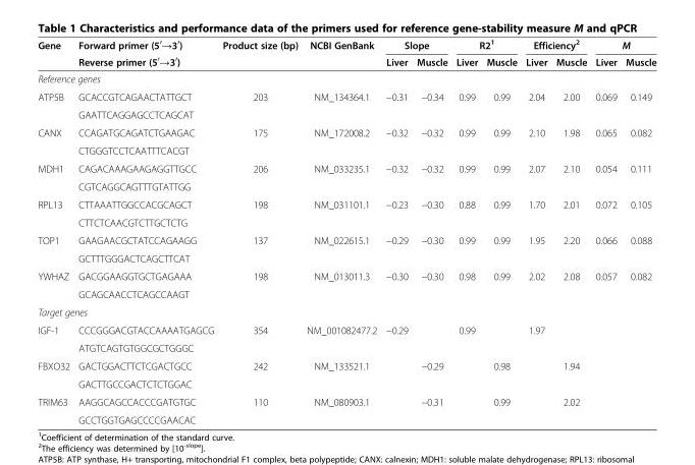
<table><thead><tr><td rowspan="2">Gene</td><td rowspan="2">Forward primer (5<sup>′</sup>→3<sup>′</sup>) Reverse primer (5<sup>′</sup>→3<sup>′</sup>)</td><td rowspan="2">Product size (bp)</td><td rowspan="2">NCBI GenBank</td><td colspan="2">Slope</td><td colspan="2">R2<sup>1</sup></td><td colspan="2">Efficiency<sup>2</sup></td><td colspan="2">M</td></tr><tr><td>Liver</td><td>Muscle</td><td>Liver</td><td>Muscle</td><td>Liver</td><td>Muscle</td><td>Liver</td><td>Muscle</td></tr></thead><tbody><tr><td colspan="12">Reference genes</td></tr><tr><td rowspan="2">ATP5B</td><td>GCACCGTCAGAACTATTGCT</td><td>203</td><td>NM_134364.1</td><td>−0.31</td><td>−0.34</td><td>0.99</td><td>0.99</td><td>2.04</td><td>2.00</td><td>0.069</td><td>0.149</td></tr><tr><td>GAATTCAGGAGCCTCAGCAT</td><td></td><td></td><td></td><td></td><td></td><td></td><td></td><td></td><td></td><td></td></tr><tr><td rowspan="2">CANX</td><td>CCAGATGCAGATCTGAAGAC</td><td>175</td><td>NM_172008.2</td><td>−0.32</td><td>−0.32</td><td>0.99</td><td>0.99</td><td>2.10</td><td>1.98</td><td>0.065</td><td>0.082</td></tr><tr><td>CTGGGTCCTCAATTTCACGT</td><td></td><td></td><td></td><td></td><td></td><td></td><td></td><td></td><td></td><td></td></tr><tr><td rowspan="2">MDH1</td><td>CAGACAAAGAAGAGGTTGCC</td><td>206</td><td>NM_033235.1</td><td>−0.32</td><td>−0.32</td><td>0.99</td><td>0.99</td><td>2.07</td><td>2.10</td><td>0.054</td><td>0.111</td></tr><tr><td>CGTCAGGCAGTTTGTATTGG</td><td></td><td></td><td></td><td></td><td></td><td></td><td></td><td></td><td></td><td></td></tr><tr><td rowspan="2">RPL13</td><td>CTTAAATTGGCCACGCAGCT</td><td>198</td><td>NM_031101.1</td><td>−0.23</td><td>−0.30</td><td>0.88</td><td>0.99</td><td>1.70</td><td>2.01</td><td>0.072</td><td>0.105</td></tr><tr><td>CTTCTCAACGTCTTGCTCTG</td><td></td><td></td><td></td><td></td><td></td><td></td><td></td><td></td><td></td><td></td></tr><tr><td rowspan="2">TOP1</td><td>GAAGAACGCTATCCAGAAGG</td><td>137</td><td>NM_022615.1</td><td>−0.29</td><td>−0.30</td><td>0.99</td><td>0.99</td><td>1.95</td><td>2.20</td><td>0.066</td><td>0.088</td></tr><tr><td>GCTTTGGGACTCAGCTTCAT</td><td></td><td></td><td></td><td></td><td></td><td></td><td></td><td></td><td></td><td></td></tr><tr><td rowspan="2">YWHAZ</td><td>GACGGAAGGTGCTGAGAAA</td><td>198</td><td>NM_013011.3</td><td>−0.30</td><td>−0.30</td><td>0.98</td><td>0.99</td><td>2.02</td><td>2.08</td><td>0.057</td><td>0.082</td></tr><tr><td>GCAGCAACCTCAGCCAAGT</td><td></td><td></td><td></td><td></td><td></td><td></td><td></td><td></td><td></td><td></td></tr><tr><td colspan="12">Target genes</td></tr><tr><td rowspan="2">IGF-1</td><td>CCCGGGACGTACCAAAATGAGCG</td><td>354</td><td>NM_001082477.2</td><td>−0.29</td><td></td><td>0.99</td><td></td><td>1.97</td><td></td><td></td><td></td></tr><tr><td>ATGTCAGTGTGGCGCTGGGC</td><td></td><td></td><td></td><td></td><td></td><td></td><td></td><td></td><td></td><td></td></tr><tr><td rowspan="2">FBXO32</td><td>GACTGGACTTCTCGACTGCC</td><td>242</td><td>NM_133521.1</td><td></td><td>−0.29</td><td></td><td>0.98</td><td></td><td>1.94</td><td></td><td></td></tr><tr><td>GACTTGCCGACTCTCTGGAC</td><td></td><td></td><td></td><td></td><td></td><td></td><td></td><td></td><td></td><td></td></tr><tr><td rowspan="2">TRIM63</td><td>AAGGCAGCCACCCGATGTGC</td><td>110</td><td>NM_080903.1</td><td></td><td>−0.31</td><td></td><td>0.99</td><td></td><td>2.02</td><td></td><td></td></tr><tr><td>GCCTGGTGAGCCCCGAACAC</td><td></td><td></td><td></td><td></td><td></td><td></td><td></td><td></td><td></td><td></td></tr></tbody></table>